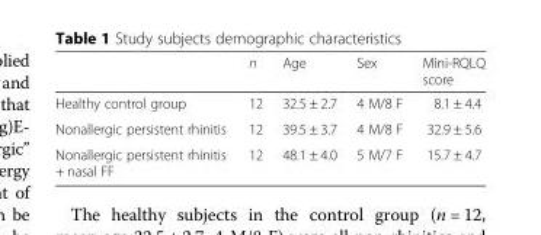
<table><thead><tr><td></td><td>n</td><td>Age</td><td>Sex</td><td>Mini-RQLQ score</td></tr></thead><tbody><tr><td>Healthy control group</td><td>12</td><td>32.5 ± 2.7</td><td>4 M/8 F</td><td>8.1 ± 4.4</td></tr><tr><td>Nonallergic persistent rhinitis</td><td>12</td><td>39.5 ± 3.7</td><td>4 M/8 F</td><td>32.9 ± 5.6</td></tr><tr><td>Nonallergic persistent rhinitis + nasal FF</td><td>12</td><td>48.1 ± 4.0</td><td>5 M/7 F</td><td>15.7 ± 4.7</td></tr></tbody></table>